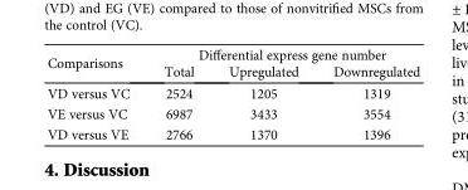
<table><thead><tr><td rowspan="2">Comparisons</td><td colspan="3">Differential express gene number</td></tr><tr><td>Total</td><td>Upregulated</td><td>Downregulated</td></tr></thead><tbody><tr><td>VD versus VC</td><td>2524</td><td>1205</td><td>1319</td></tr><tr><td>VE versus VC</td><td>6987</td><td>3433</td><td>3554</td></tr><tr><td>VD versus VE</td><td>2766</td><td>1370</td><td>1396</td></tr></tbody></table>